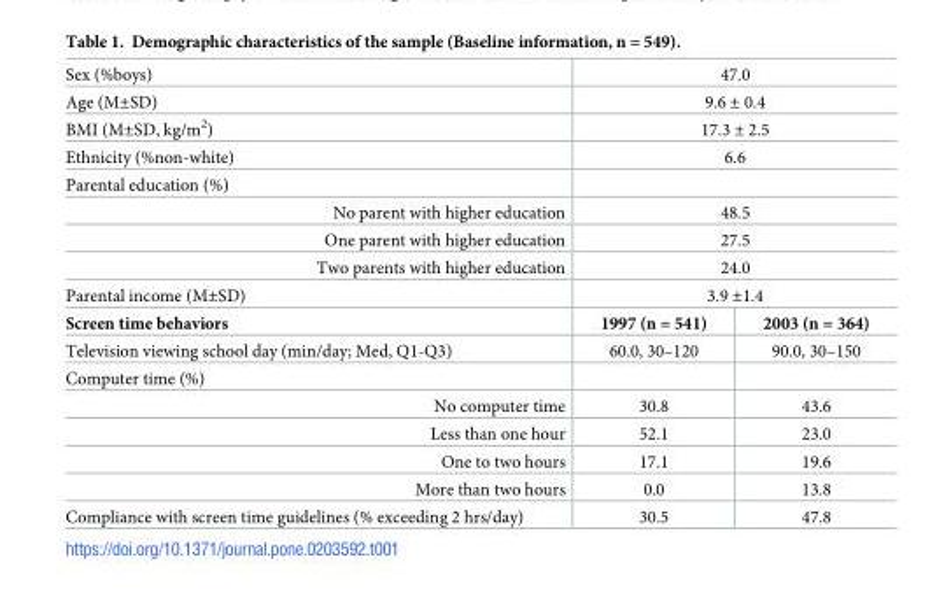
<table><tbody><tr><td>Sex (%boys)</td><td colspan="2">47.0</td></tr><tr><td>Age (M±SD)</td><td colspan="2">9.6 ± 0.4</td></tr><tr><td>BMI (M±SD, kg/m<sup>2</sup>)</td><td colspan="2">17.3 ± 2.5</td></tr><tr><td>Ethnicity (%non-white)</td><td colspan="2">6.6</td></tr><tr><td colspan="3">Parental education (%)</td></tr><tr><td>No parent with higher education</td><td colspan="2">48.5</td></tr><tr><td>One parent with higher education</td><td colspan="2">27.5</td></tr><tr><td>Two parents with higher education</td><td colspan="2">24.0</td></tr><tr><td>Parental income (M±SD)</td><td colspan="2">3.9 ±1.4</td></tr><tr><td>Screen time behaviors</td><td>1997 (n = 541)</td><td>2003 (n = 364)</td></tr><tr><td>Television viewing school day (min/day; Med, Q1-Q3)</td><td>60.0, 30–120</td><td>90.0, 30–150</td></tr><tr><td colspan="3">Computer time (%)</td></tr><tr><td>No computer time</td><td>30.8</td><td>43.6</td></tr><tr><td>Less than one hour</td><td>52.1</td><td>23.0</td></tr><tr><td>One to two hours</td><td>17.1</td><td>19.6</td></tr><tr><td>More than two hours</td><td>0.0</td><td>13.8</td></tr><tr><td>Compliance with screen time guidelines (% exceeding 2 hrs/day)</td><td>30.5</td><td>47.8</td></tr></tbody></table>